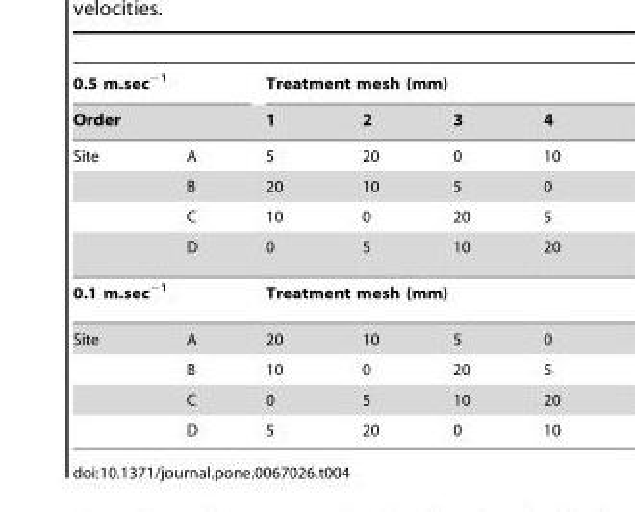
<table><thead><tr><td rowspan="2" colspan="2">0.5 m.sec<sup>−1</sup> Order</td><td colspan="4">Treatment mesh (mm)</td></tr><tr><td rowspan="2">1 5</td><td rowspan="2">2 20</td><td rowspan="2">3 0</td><td rowspan="2">4 10</td></tr><tr><td>Site</td><td>A</td></tr></thead><tbody><tr><td></td><td>B</td><td>20</td><td>10</td><td>5</td><td>0</td></tr><tr><td></td><td>C</td><td>10</td><td>0</td><td>20</td><td>5</td></tr><tr><td></td><td>D</td><td>0</td><td>5</td><td>10</td><td>20</td></tr><tr><td colspan="2">0.1 m.sec<sup>−1</sup></td><td colspan="4">Treatment mesh (mm)</td></tr><tr><td rowspan="4">Site</td><td>A</td><td>20</td><td>10</td><td>5</td><td>0</td></tr><tr><td>B</td><td>10</td><td>0</td><td>20</td><td>5</td></tr><tr><td>C</td><td>0</td><td>5</td><td>10</td><td>20</td></tr><tr><td>D</td><td>5</td><td>20</td><td>0</td><td>10</td></tr></tbody></table>